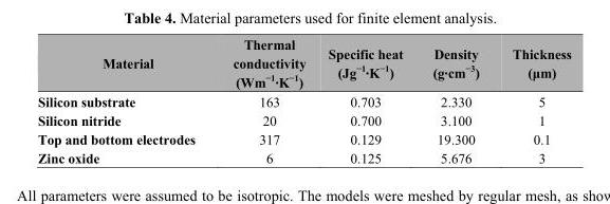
<table><thead><tr><td>Material</td><td>Thermal conductivity (Wm<sup>−1</sup>·K<sup>−1</sup>)</td><td>Specific heat (Jg<sup>−1</sup>·K<sup>−1</sup>)</td><td>Density (g·cm<sup>−3</sup>)</td><td>Thickness (μm)</td></tr></thead><tbody><tr><td>Silicon substrate</td><td>163</td><td>0.703</td><td>2.330</td><td>5</td></tr><tr><td>Silicon nitride</td><td>20</td><td>0.700</td><td>3.100</td><td>1</td></tr><tr><td>Top and bottom electrodes</td><td>317</td><td>0.129</td><td>19.300</td><td>0.1</td></tr><tr><td>Zinc oxide</td><td>6</td><td>0.125</td><td>5.676</td><td>3</td></tr></tbody></table>